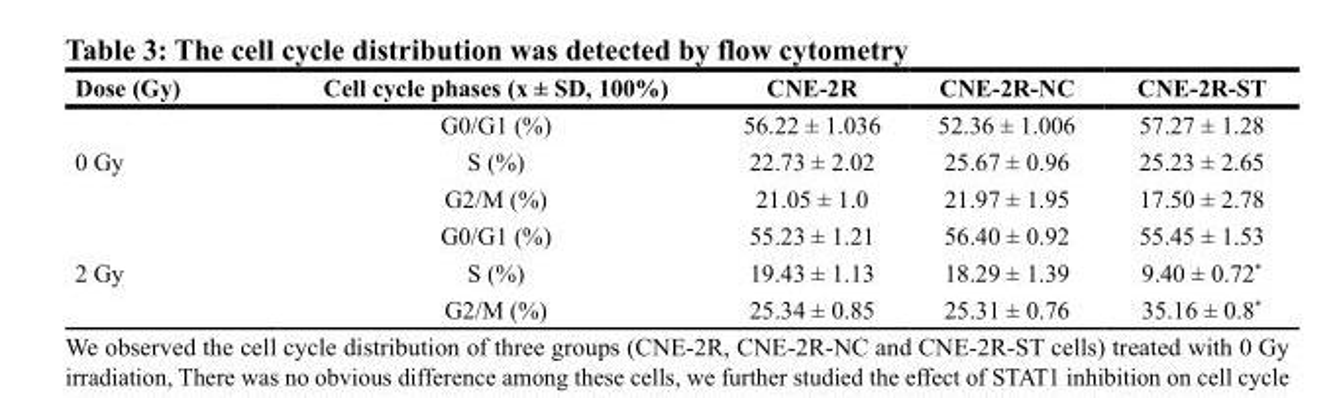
<table><thead><tr><td>Dose (Gy)</td><td>Cell cycle phases (x ± SD, 100%)</td><td>CNE-2R</td><td>CNE-2R-NC</td><td>CNE-2R-ST</td></tr></thead><tbody><tr><td></td><td>G0/G1 (%)</td><td>56.22 ± 1.036</td><td>52.36 ± 1.006</td><td>57.27 ± 1.28</td></tr><tr><td rowspan="3">0 Gy</td><td>S (%)</td><td>22.73 ± 2.02</td><td>25.67 ± 0.96</td><td>25.23 ± 2.65</td></tr><tr><td>G2/M (%)</td><td>21.05 ± 1.0</td><td>21.97 ± 1.95</td><td>17.50 ± 2.78</td></tr><tr><td>G0/G1 (%)</td><td>55.23 ± 1.21</td><td>56.40 ± 0.92</td><td>55.45 ± 1.53</td></tr><tr><td rowspan="2">2 Gy</td><td>S (%)</td><td>19.43 ± 1.13</td><td>18.29 ± 1.39</td><td>9.40 ± 0.72*</td></tr><tr><td>G2/M (%)</td><td>25.34 ± 0.85</td><td>25.31 ± 0.76</td><td>35.16 ± 0.8*</td></tr></tbody></table>